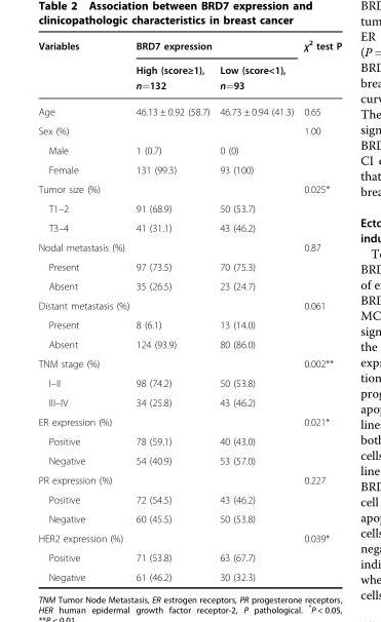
<table><thead><tr><td rowspan="2">Variables</td><td colspan="2">BRD7 expression</td><td rowspan="2">χ2 test P</td></tr><tr><td>High (score≥1), n=132</td><td>Low (score&lt;1), n=93</td></tr></thead><tbody><tr><td>Age</td><td>46.13 ± 0.92 (58.7)</td><td>46.73 ± 0.94 (41.3)</td><td>0.65</td></tr><tr><td>Sex (%)</td><td></td><td></td><td>1.00</td></tr><tr><td>Male</td><td>1 (0.7)</td><td>0 (0)</td><td></td></tr><tr><td>Female</td><td>131 (99.3)</td><td>93 (100)</td><td></td></tr><tr><td>Tumor size (%)</td><td></td><td></td><td>0.025*</td></tr><tr><td>T1–2</td><td>91 (68.9)</td><td>50 (53.7)</td><td></td></tr><tr><td>T3–4</td><td>41 (31.1)</td><td>43 (46.2)</td><td></td></tr><tr><td>Nodal metastasis (%)</td><td></td><td></td><td>0.87</td></tr><tr><td>Present</td><td>97 (73.5)</td><td>70 (75.3)</td><td></td></tr><tr><td>Absent</td><td>35 (26.5)</td><td>23 (24.7)</td><td></td></tr><tr><td>Distant metastasis (%)</td><td></td><td></td><td>0.061</td></tr><tr><td>Present</td><td>8 (6.1)</td><td>13 (14.0)</td><td></td></tr><tr><td>Absent</td><td>124 (93.9)</td><td>80 (86.0)</td><td></td></tr><tr><td>TNM stage (%)</td><td></td><td></td><td>0.002**</td></tr><tr><td>I–II</td><td>98 (74.2)</td><td>50 (53.8)</td><td></td></tr><tr><td>III–IV</td><td>34 (25.8)</td><td>43 (46.2)</td><td></td></tr><tr><td>ER expression (%)</td><td></td><td></td><td>0.021*</td></tr><tr><td>Positive</td><td>78 (59.1)</td><td>40 (43.0)</td><td></td></tr><tr><td>Negative</td><td>54 (40.9)</td><td>53 (57.0)</td><td></td></tr><tr><td>PR expression (%)</td><td></td><td></td><td>0.227</td></tr><tr><td>Positive</td><td>72 (54.5)</td><td>43 (46.2)</td><td></td></tr><tr><td>Negative</td><td>60 (45.5)</td><td>50 (53.8)</td><td></td></tr><tr><td>HER2 expression (%)</td><td></td><td></td><td>0.039*</td></tr><tr><td>Positive</td><td>71 (53.8)</td><td>63 (67.7)</td><td></td></tr><tr><td>Negative</td><td>61 (46.2)</td><td>30 (32.3)</td><td></td></tr></tbody></table>